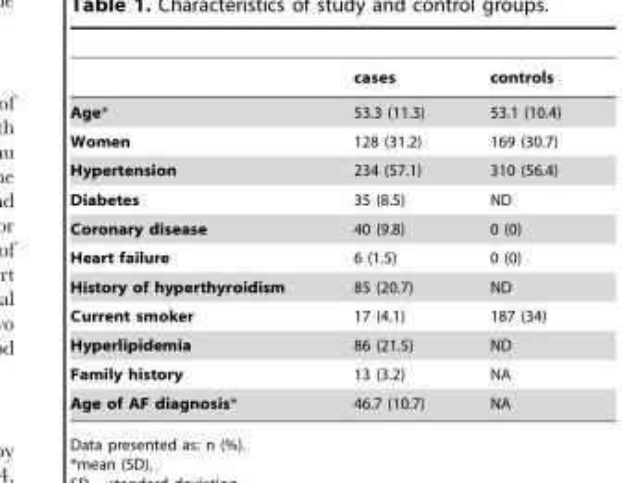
<table><thead><tr><td></td><td>cases</td><td>controls</td></tr></thead><tbody><tr><td>Age*</td><td>53.3 (11.3)</td><td>53.1 (10.4)</td></tr><tr><td>Women</td><td>128 (31.2)</td><td>169 (30.7)</td></tr><tr><td>Hypertension</td><td>234 (57.1)</td><td>310 (56.4)</td></tr><tr><td>Diabetes</td><td>35 (8.5)</td><td>ND</td></tr><tr><td>Coronary disease</td><td>40 (9.8)</td><td>0 (0)</td></tr><tr><td>Heart failure</td><td>6 (1.5)</td><td>0 (0)</td></tr><tr><td>History of hyperthyroidism</td><td>85 (20.7)</td><td>ND</td></tr><tr><td>Current smoker</td><td>17 (4.1)</td><td>187 (34)</td></tr><tr><td>Hyperlipidemia</td><td>86 (21.5)</td><td>ND</td></tr><tr><td>Family history</td><td>13 (3.2)</td><td>NA</td></tr><tr><td>Age of AF diagnosis*</td><td>46.7 (10.7)</td><td>NA</td></tr></tbody></table>